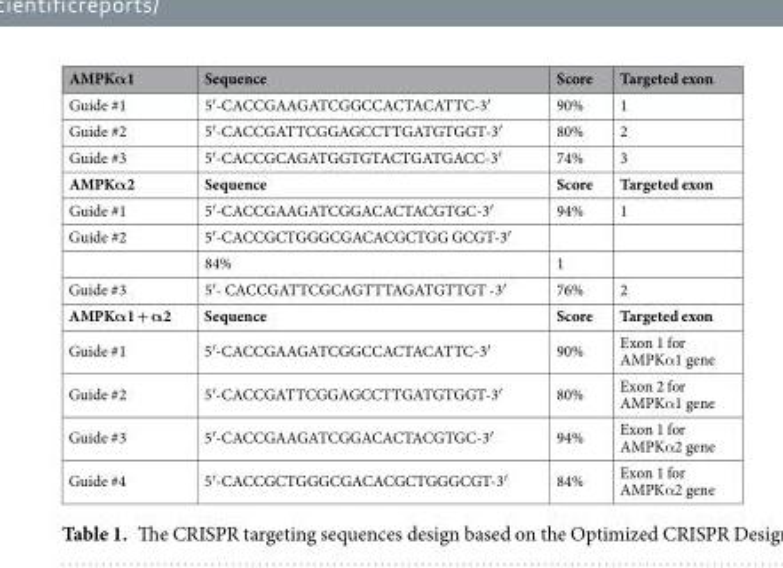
<table><thead><tr><td>AMPKα1</td><td>Sequence</td><td>Score</td><td>Targeted exon</td></tr></thead><tbody><tr><td>Guide #1</td><td>5′-CACCGAAGATCGGCCACTACATTC-3′</td><td>90%</td><td>1</td></tr><tr><td>Guide #2</td><td>5′-CACCGATTCGGAGCCTTGATGTGGT-3′</td><td>80%</td><td>2</td></tr><tr><td>Guide #3</td><td>5′-CACCGCAGATGGTGTACTGATGACC-3′</td><td>74%</td><td>3</td></tr><tr><td>AMPKα2</td><td>Sequence</td><td>Score</td><td>Targeted exon</td></tr><tr><td>Guide #1</td><td>5′-CACCGAAGATCGGACACTACGTGC-3′</td><td>94%</td><td>1</td></tr><tr><td rowspan="2">Guide #2</td><td>5′-CACCGCTGGGCGACACGCTGG GCGT-3′</td><td></td><td></td></tr><tr><td>84%</td><td>1</td><td></td></tr><tr><td>Guide #3</td><td>5′- CACCGATTCGCAGTTTAGATGTTGT -3′</td><td>76%</td><td>2</td></tr><tr><td>AMPKα1 + α2</td><td>Sequence</td><td>Score</td><td>Targeted exon</td></tr><tr><td>Guide #1</td><td>5′-CACCGAAGATCGGCCACTACATTC-3′</td><td>90%</td><td>Exon 1 for AMPKα1 gene</td></tr><tr><td>Guide #2</td><td>5′-CACCGATTCGGAGCCTTGATGTGGT-3′</td><td>80%</td><td>Exon 2 for AMPKα1 gene</td></tr><tr><td>Guide #3</td><td>5′-CACCGAAGATCGGACACTACGTGC-3′</td><td>94%</td><td>Exon 1 for AMPKα2 gene</td></tr><tr><td>Guide #4</td><td>5′-CACCGCTGGGCGACACGCTGGGCGT-3′</td><td>84%</td><td>Exon 1 for AMPKα2 gene</td></tr></tbody></table>